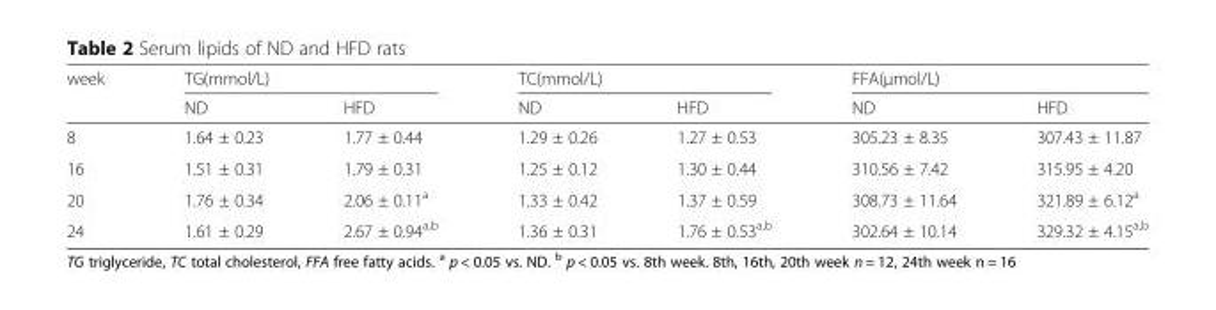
<table><thead><tr><td rowspan="2">week</td><td colspan="2">TG(mmol/L)</td><td colspan="2">TC(mmol/L)</td><td colspan="2">FFA(μmol/L)</td></tr><tr><td>ND</td><td>HFD</td><td>ND</td><td>HFD</td><td>ND</td><td>HFD</td></tr></thead><tbody><tr><td>8</td><td>1.64 ± 0.23</td><td>1.77 ± 0.44</td><td>1.29 ± 0.26</td><td>1.27 ± 0.53</td><td>305.23 ± 8.35</td><td>307.43 ± 11.87</td></tr><tr><td>16</td><td>1.51 ± 0.31</td><td>1.79 ± 0.31</td><td>1.25 ± 0.12</td><td>1.30 ± 0.44</td><td>310.56 ± 7.42</td><td>315.95 ± 4.20</td></tr><tr><td>20</td><td>1.76 ± 0.34</td><td>2.06 ± 0.11<sup>a</sup></td><td>1.33 ± 0.42</td><td>1.37 ± 0.59</td><td>308.73 ± 11.64</td><td>321.89 ± 6.12<sup>a</sup></td></tr><tr><td>24</td><td>1.61 ± 0.29</td><td>2.67 ± 0.94<sup>a,b</sup></td><td>1.36 ± 0.31</td><td>1.76 ± 0.53<sup>a,b</sup></td><td>302.64 ± 10.14</td><td>329.32 ± 4.15<sup>a,b</sup></td></tr></tbody></table>